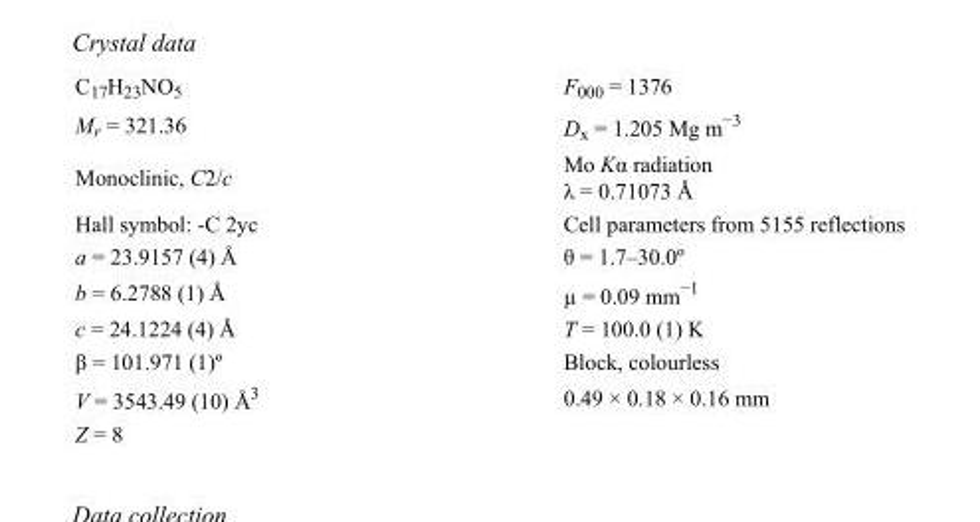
<table><tbody><tr><td>C<sub>17</sub>H<sub>23</sub>NO<sub>5</sub></td><td>F<sub>000</sub> = 1376</td></tr><tr><td>M<sub>r</sub> = 321.36</td><td>D<sub>x</sub> = 1.205 Mg m<sup>−3</sup></td></tr><tr><td>Monoclinic, C2/c</td><td>Mo Kα radiation λ = 0.71073 Å</td></tr><tr><td>Hall symbol: -C 2yc</td><td>Cell parameters from 5155 reflections</td></tr><tr><td>a = 23.9157 (4) Å</td><td>θ = 1.7–30.0º</td></tr><tr><td>b = 6.2788 (1) Å</td><td>µ = 0.09 mm<sup>−1</sup></td></tr><tr><td>c = 24.1224 (4) Å</td><td>T = 100.0 (1) K</td></tr><tr><td>β = 101.971 (1)º</td><td>Block, colourless</td></tr><tr><td>V = 3543.49 (10) Å<sup>3</sup></td><td>0.49 × 0.18 × 0.16 mm</td></tr><tr><td>Z = 8</td><td></td></tr></tbody></table>